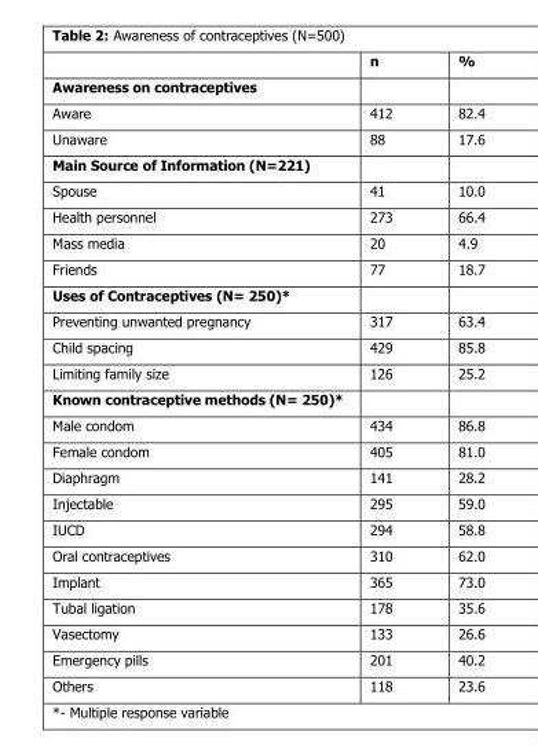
<table><thead><tr><td></td><td>n</td><td>%</td></tr></thead><tbody><tr><td colspan="3">Awareness on contraceptives</td></tr><tr><td>Aware</td><td>412</td><td>82.4</td></tr><tr><td>Unaware</td><td>88</td><td>17.6</td></tr><tr><td colspan="3">Main Source of Information (N=221)</td></tr><tr><td>Spouse</td><td>41</td><td>10.0</td></tr><tr><td>Health personnel</td><td>273</td><td>66.4</td></tr><tr><td>Mass media</td><td>20</td><td>4.9</td></tr><tr><td>Friends</td><td>77</td><td>18.7</td></tr><tr><td colspan="3">Uses of Contraceptives (N= 250)*</td></tr><tr><td>Preventing unwanted pregnancy</td><td>317</td><td>63.4</td></tr><tr><td>Child spacing</td><td>429</td><td>85.8</td></tr><tr><td>Limiting family size</td><td>126</td><td>25.2</td></tr><tr><td colspan="3">Known contraceptive methods (N= 250)*</td></tr><tr><td>Male condom</td><td>434</td><td>86.8</td></tr><tr><td>Female condom</td><td>405</td><td>81.0</td></tr><tr><td>Diaphragm</td><td>141</td><td>28.2</td></tr><tr><td>Injectable</td><td>295</td><td>59.0</td></tr><tr><td>IUCD</td><td>294</td><td>58.8</td></tr><tr><td>Oral contraceptives</td><td>310</td><td>62.0</td></tr><tr><td>Implant</td><td>365</td><td>73.0</td></tr><tr><td>Tubal ligation</td><td>178</td><td>35.6</td></tr><tr><td>Vasectomy</td><td>133</td><td>26.6</td></tr><tr><td>Emergency pills</td><td>201</td><td>40.2</td></tr><tr><td>Others</td><td>118</td><td>23.6</td></tr></tbody></table>